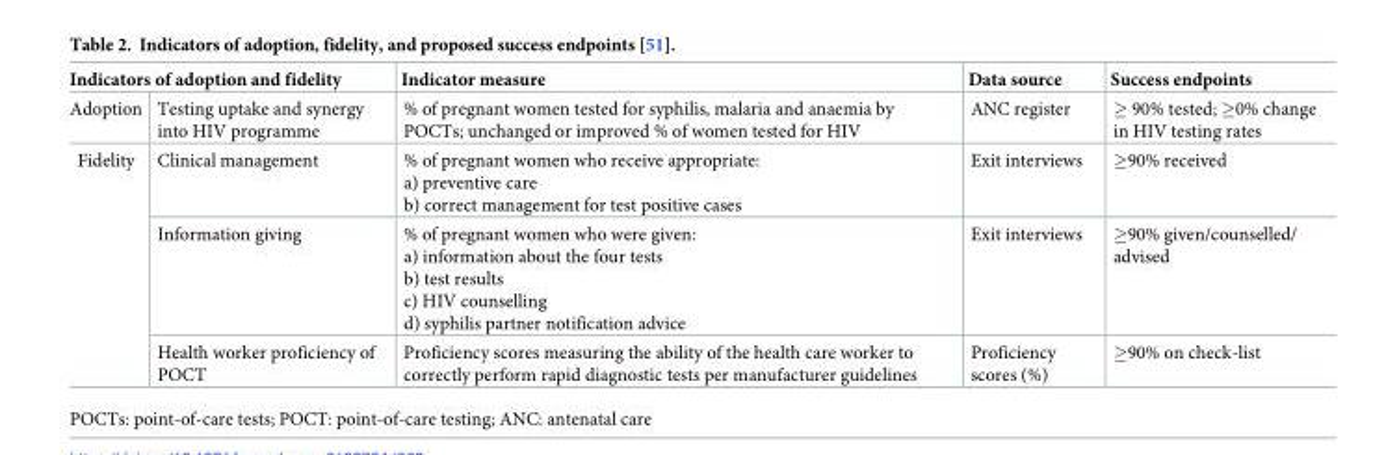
<table><thead><tr><td colspan="2">Indicators of adoption and fidelity</td><td rowspan="2">Indicator measure % of pregnant women tested for syphilis, malaria and anaemia by POCTs; unchanged or improved % of women tested for HIV</td><td rowspan="2">Data source ANC register</td><td rowspan="2">Success endpoints ≥ 90% tested; ≥0% change in HIV testing rates</td></tr><tr><td>Adoption</td><td>Testing uptake and synergy into HIV programme</td></tr></thead><tbody><tr><td rowspan="3">Fidelity</td><td>Clinical management</td><td>% of pregnant women who receive appropriate: a) preventive care b) correct management for test positive cases</td><td>Exit interviews</td><td>≥90% received</td></tr><tr><td>Information giving</td><td>% of pregnant women who were given: a) information about the four tests b) test results c) HIV counselling d) syphilis partner notification advice</td><td>Exit interviews</td><td>≥90% given/counselled/ advised</td></tr><tr><td>Health worker proficiency of POCT</td><td>Proficiency scores measuring the ability of the health care worker to correctly perform rapid diagnostic tests per manufacturer guidelines</td><td>Proficiency scores (%)</td><td>≥90% on check-list</td></tr></tbody></table>